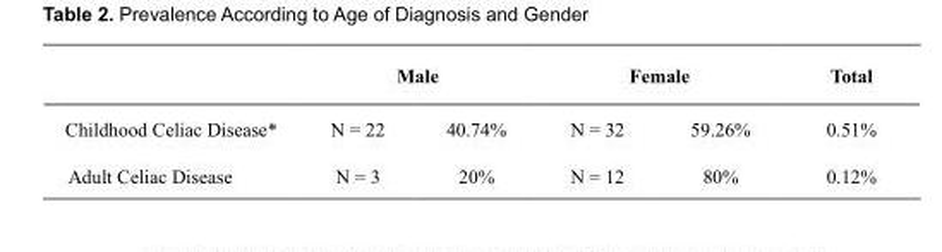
<table><thead><tr><td rowspan="2">Childhood Celiac Disease*</td><td colspan="2">Male</td><td colspan="2">Female</td><td rowspan="2">Total 0.51%</td></tr><tr><td>N = 22</td><td>40.74%</td><td>N = 32</td><td>59.26%</td></tr></thead><tbody><tr><td>Adult Celiac Disease</td><td>N = 3</td><td>20%</td><td>N = 12</td><td>80%</td><td>0.12%</td></tr></tbody></table>